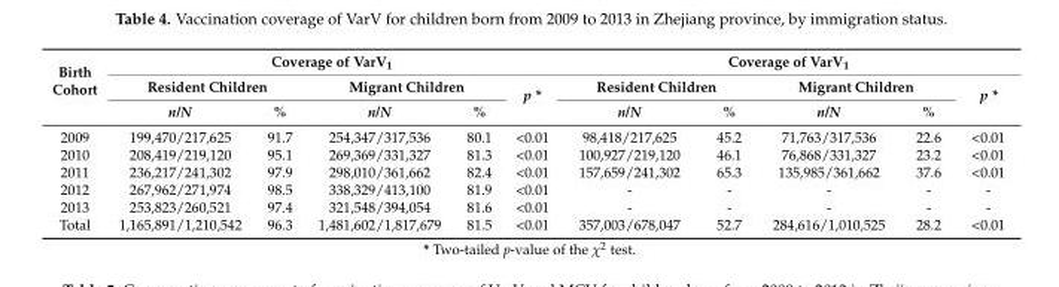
<table><thead><tr><td rowspan="3">Birth Cohort</td><td colspan="5">Coverage of VarV<sub>1</sub></td><td colspan="5">Coverage of VarV<sub>1</sub></td></tr><tr><td colspan="2">Resident Children</td><td colspan="2">Migrant Children</td><td rowspan="2">p *</td><td colspan="2">Resident Children</td><td colspan="2">Migrant Children</td><td rowspan="2">p *</td></tr><tr><td>n/N</td><td>%</td><td>n/N</td><td>%</td><td>n/N</td><td>%</td><td>n/N</td><td>%</td></tr></thead><tbody><tr><td>2009</td><td>199,470/217,625</td><td>91.7</td><td>254,347/317,536</td><td>80.1</td><td>&lt;0.01</td><td>98,418/217,625</td><td>45.2</td><td>71,763/317,536</td><td>22.6</td><td>&lt;0.01</td></tr><tr><td>2010</td><td>208,419/219,120</td><td>95.1</td><td>269,369/331,327</td><td>81.3</td><td>&lt;0.01</td><td>100,927/219,120</td><td>46.1</td><td>76,868/331,327</td><td>23.2</td><td>&lt;0.01</td></tr><tr><td>2011</td><td>236,217/241,302</td><td>97.9</td><td>298,010/361,662</td><td>82.4</td><td>&lt;0.01</td><td>157,659/241,302</td><td>65.3</td><td>135,985/361,662</td><td>37.6</td><td>&lt;0.01</td></tr><tr><td>2012</td><td>267,962/271,974</td><td>98.5</td><td>338,329/413,100</td><td>81.9</td><td>&lt;0.01</td><td>-</td><td>-</td><td>-</td><td>-</td><td>-</td></tr><tr><td>2013</td><td>253,823/260,521</td><td>97.4</td><td>321,548/394,054</td><td>81.6</td><td>&lt;0.01</td><td>-</td><td>-</td><td>-</td><td>-</td><td>-</td></tr><tr><td>Total</td><td>1,165,891/1,210,542</td><td>96.3</td><td>1,481,602/1,817,679</td><td>81.5</td><td>&lt;0.01</td><td>357,003/678,047</td><td>52.7</td><td>284,616/1,010,525</td><td>28.2</td><td>&lt;0.01</td></tr></tbody></table>